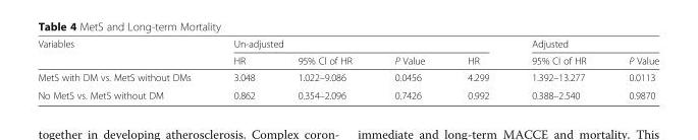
<table><thead><tr><td rowspan="2">Variables</td><td colspan="4">Un-adjusted</td><td colspan="2">Adjusted</td></tr><tr><td>HR</td><td>95% Cl of HR</td><td>P Value</td><td>HR</td><td>95% CI of HR</td><td>P Value</td></tr></thead><tbody><tr><td>MetS with DM vs. MetS without DMs</td><td>3.048</td><td>1.022–9.086</td><td>0.0456</td><td>4.299</td><td>1.392–13.277</td><td>0.0113</td></tr><tr><td>No MetS vs. MetS without DM</td><td>0.862</td><td>0.354–2.096</td><td>0.7426</td><td>0.992</td><td>0.388–2.540</td><td>0.9870</td></tr></tbody></table>